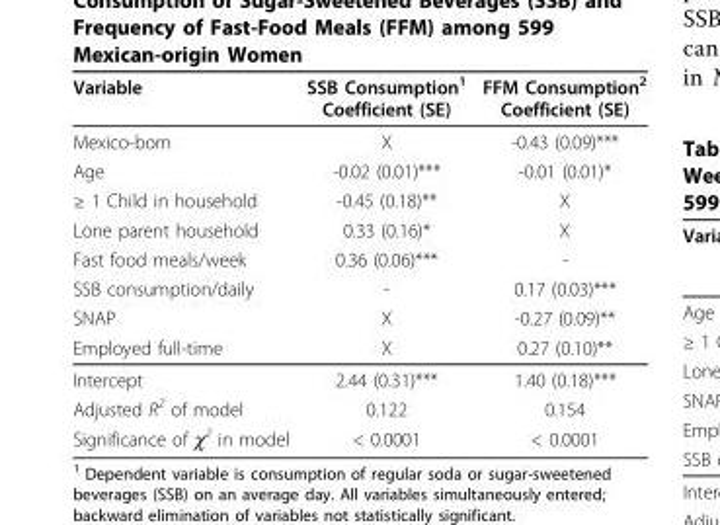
<table><thead><tr><td>Variable</td><td>SSB Consumption<sup>1</sup> Coefficient (SE)</td><td>FFM Consumption<sup>2</sup> Coefficient (SE)</td></tr></thead><tbody><tr><td>Mexico-born</td><td>X</td><td>-0.43 (0.09)***</td></tr><tr><td>Age</td><td>-0.02 (0.01)***</td><td>-0.01 (0.01)*</td></tr><tr><td>≥ 1 Child in household</td><td>-0.45 (0.18)**</td><td>X</td></tr><tr><td>Lone parent household</td><td>0.33 (0.16)*</td><td>X</td></tr><tr><td>Fast food meals/week</td><td>0.36 (0.06)***</td><td>-</td></tr><tr><td>SSB consumption/daily</td><td>-</td><td>0.17 (0.03)***</td></tr><tr><td>SNAP</td><td>X</td><td>-0.27 (0.09)**</td></tr><tr><td>Employed full-time</td><td>X</td><td>0.27 (0.10)**</td></tr><tr><td>Intercept</td><td>2.44 (0.31)***</td><td>1.40 (0.18)***</td></tr><tr><td>Adjusted R<sup>2</sup> of model</td><td>0.122</td><td>0.154</td></tr><tr><td>Significance of χ<sup>2</sup> in model</td><td>&lt; 0.0001</td><td>&lt; 0.0001</td></tr></tbody></table>